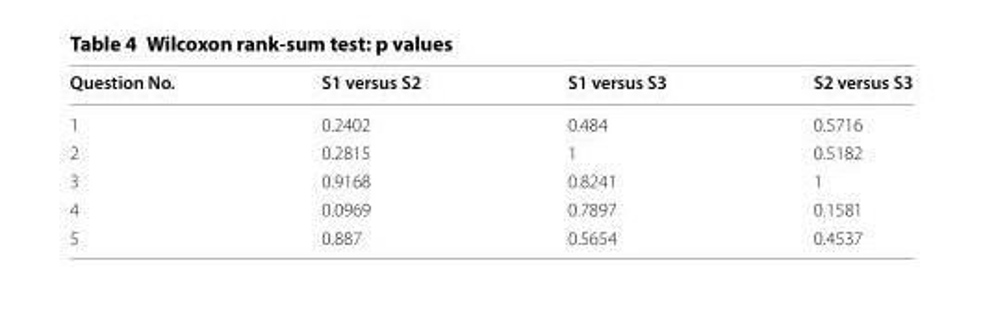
<table><thead><tr><td>Question No.</td><td>S1 versus S2</td><td>S1 versus S3</td><td>S2 versus S3</td></tr></thead><tbody><tr><td>1</td><td>0.2402</td><td>0.484</td><td>0.5716</td></tr><tr><td>2</td><td>0.2815</td><td>1</td><td>0.5182</td></tr><tr><td>3</td><td>0.9168</td><td>0.8241</td><td>1</td></tr><tr><td>4</td><td>0.0969</td><td>0.7897</td><td>0.1581</td></tr><tr><td>5</td><td>0.887</td><td>0.5654</td><td>0.4537</td></tr></tbody></table>